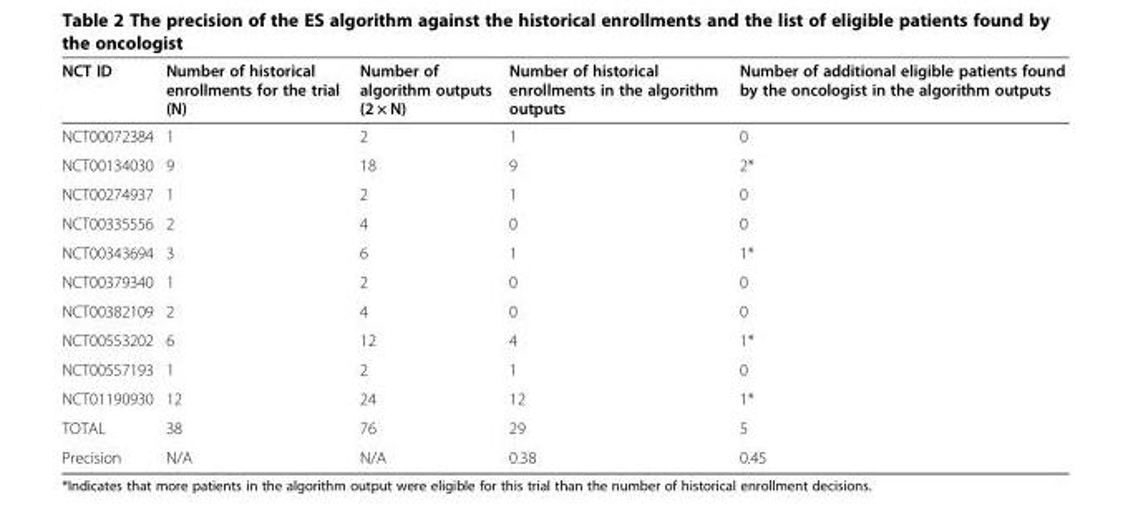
<table><thead><tr><td>NCT ID</td><td>Number of historical enrollments for the trial (N)</td><td>Number of algorithm outputs (2 × N)</td><td>Number of historical enrollments in the algorithm outputs</td><td>Number of additional eligible patients found by the oncologist in the algorithm outputs</td></tr></thead><tbody><tr><td>NCT00072384</td><td>1</td><td>2</td><td>1</td><td>0</td></tr><tr><td>NCT00134030</td><td>9</td><td>18</td><td>9</td><td>2*</td></tr><tr><td>NCT00274937</td><td>1</td><td>2</td><td>1</td><td>0</td></tr><tr><td>NCT00335556</td><td>2</td><td>4</td><td>0</td><td>0</td></tr><tr><td>NCT00343694</td><td>3</td><td>6</td><td>1</td><td>1*</td></tr><tr><td>NCT00379340</td><td>1</td><td>2</td><td>0</td><td>0</td></tr><tr><td>NCT00382109</td><td>2</td><td>4</td><td>0</td><td>0</td></tr><tr><td>NCT00553202</td><td>6</td><td>12</td><td>4</td><td>1*</td></tr><tr><td>NCT00557193</td><td>1</td><td>2</td><td>1</td><td>0</td></tr><tr><td>NCT01190930</td><td>12</td><td>24</td><td>12</td><td>1*</td></tr><tr><td>TOTAL</td><td>38</td><td>76</td><td>29</td><td>5</td></tr><tr><td>Precision</td><td>N/A</td><td>N/A</td><td>0.38</td><td>0.45</td></tr></tbody></table>